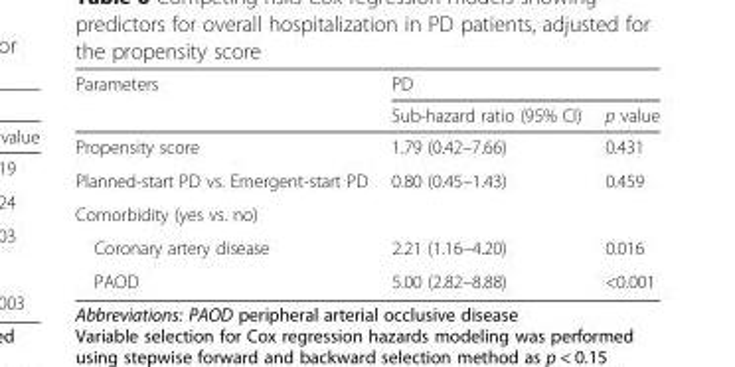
<table><thead><tr><td rowspan="2">Parameters</td><td colspan="2">PD</td></tr><tr><td>Sub-hazard ratio (95% CI)</td><td>p value</td></tr></thead><tbody><tr><td>Propensity score</td><td>1.79 (0.42–7.66)</td><td>0.431</td></tr><tr><td>Planned-start PD vs. Emergent-start PD</td><td>0.80 (0.45–1.43)</td><td>0.459</td></tr><tr><td colspan="3">Comorbidity (yes vs. no)</td></tr><tr><td>Coronary artery disease</td><td>2.21 (1.16–4.20)</td><td>0.016</td></tr><tr><td>PAOD</td><td>5.00 (2.82–8.88)</td><td>&lt;0.001</td></tr></tbody></table>